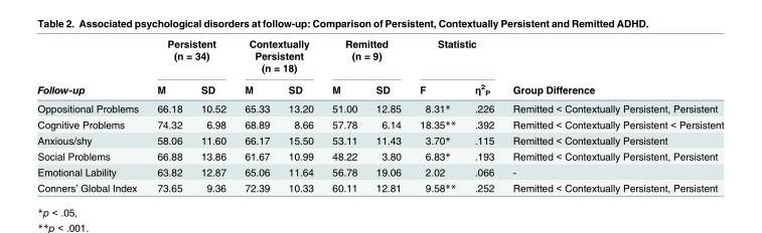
<table><thead><tr><td rowspan="2">Follow-up</td><td colspan="2">Persistent (n = 34)</td><td colspan="2">Contextually Persistent (n = 18)</td><td colspan="2">Remitted (n = 9)</td><td colspan="2">Statistic</td><td rowspan="2">Group Difference</td></tr><tr><td>M</td><td>SD</td><td>M</td><td>SD</td><td>M</td><td>SD</td><td>F</td><td>η<sup>2</sup> <sub>P</sub></td></tr></thead><tbody><tr><td>Oppositional Problems</td><td>66.18</td><td>10.52</td><td>65.33</td><td>13.20</td><td>51.00</td><td>12.85</td><td>8.31*</td><td>.226</td><td>Remitted &lt; Contextually Persistent, Persistent</td></tr><tr><td>Cognitive Problems</td><td>74.32</td><td>6.98</td><td>68.89</td><td>8.66</td><td>57.78</td><td>6.14</td><td>18.35**</td><td>.392</td><td>Remitted &lt; Contextually Persistent &lt; Persistent</td></tr><tr><td>Anxious/shy</td><td>58.06</td><td>11.60</td><td>66.17</td><td>15.50</td><td>53.11</td><td>11.43</td><td>3.70*</td><td>.115</td><td>Remitted &lt; Contextually Persistent</td></tr><tr><td>Social Problems</td><td>66.88</td><td>13.86</td><td>61.67</td><td>10.99</td><td>48.22</td><td>3.80</td><td>6.83*</td><td>.193</td><td>Remitted &lt; Contextually Persistent, Persistent</td></tr><tr><td>Emotional Lability</td><td>63.82</td><td>12.87</td><td>65.06</td><td>11.64</td><td>56.78</td><td>19.06</td><td>2.02</td><td>.066</td><td>-</td></tr><tr><td>Conners’ Global Index</td><td>73.65</td><td>9.36</td><td>72.39</td><td>10.33</td><td>60.11</td><td>12.81</td><td>9.58**</td><td>.252</td><td>Remitted &lt; Contextually Persistent, Persistent</td></tr></tbody></table>